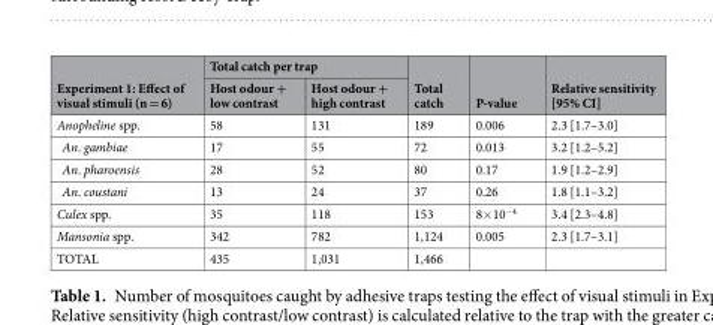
<table><thead><tr><td rowspan="2">Experiment 1: Effect of visual stimuli (n = 6)</td><td colspan="2">Total catch per trap</td><td rowspan="2">Total catch</td><td rowspan="2">P-value</td><td rowspan="2">Relative sensitivity [95% CI]</td></tr><tr><td>Host odour + low contrast</td><td>Host odour + high contrast</td></tr></thead><tbody><tr><td>Anopheline spp.</td><td>58</td><td>131</td><td>189</td><td>0.006</td><td>2.3 [1.7–3.0]</td></tr><tr><td>An. gambiae</td><td>17</td><td>55</td><td>72</td><td>0.013</td><td>3.2 [1.2–5.2]</td></tr><tr><td>An. pharoensis</td><td>28</td><td>52</td><td>80</td><td>0.17</td><td>1.9 [1.2–2.9]</td></tr><tr><td>An. coustani</td><td>13</td><td>24</td><td>37</td><td>0.26</td><td>1.8 [1.1–3.2]</td></tr><tr><td>Culex spp.</td><td>35</td><td>118</td><td>153</td><td>8×10<sup>−4</sup></td><td>3.4 [2.3–4.8]</td></tr><tr><td>Mansonia spp.</td><td>342</td><td>782</td><td>1,124</td><td>0.005</td><td>2.3 [1.7–3.1]</td></tr><tr><td>TOTAL</td><td>435</td><td>1,031</td><td>1,466</td><td></td><td></td></tr></tbody></table>